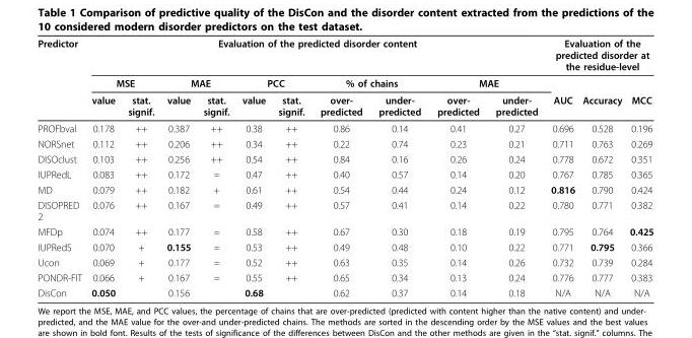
<table><thead><tr><td rowspan="3">Predictor</td><td colspan="10">Evaluation of the predicted disorder content</td><td colspan="3">Evaluation of the predicted disorder at the residue-level</td></tr><tr><td colspan="2">MSE</td><td colspan="2">MAE</td><td colspan="2">PCC</td><td colspan="2">% of chains</td><td colspan="2">MAE</td><td rowspan="2">AUC</td><td rowspan="2">Accuracy</td><td rowspan="2">MCC</td></tr><tr><td>value</td><td>stat. signif.</td><td>value</td><td>stat. signif.</td><td>value</td><td>stat. signif.</td><td>over- predicted</td><td>under- predicted</td><td>over- predicted</td><td>under- predicted</td></tr></thead><tbody><tr><td>PROFbval</td><td>0.178</td><td>++</td><td>0.387</td><td>++</td><td>0.38</td><td>++</td><td>0.86</td><td>0.14</td><td>0.41</td><td>0.27</td><td>0.696</td><td>0.528</td><td>0.196</td></tr><tr><td>NORSnet</td><td>0.112</td><td>++</td><td>0.206</td><td>++</td><td>0.34</td><td>++</td><td>0.22</td><td>0.74</td><td>0.23</td><td>0.21</td><td>0.711</td><td>0.763</td><td>0.269</td></tr><tr><td>DISOclust</td><td>0.103</td><td>++</td><td>0.256</td><td>++</td><td>0.54</td><td>++</td><td>0.84</td><td>0.16</td><td>0.26</td><td>0.24</td><td>0.778</td><td>0.672</td><td>0.351</td></tr><tr><td>IUPRedL</td><td>0.083</td><td>++</td><td>0.172</td><td>=</td><td>0.47</td><td>++</td><td>0.40</td><td>0.57</td><td>0.14</td><td>0.20</td><td>0.767</td><td>0.785</td><td>0.365</td></tr><tr><td>MD</td><td>0.079</td><td>++</td><td>0.182</td><td>+</td><td>0.61</td><td>++</td><td>0.54</td><td>0.44</td><td>0.24</td><td>0.12</td><td>0.816</td><td>0.790</td><td>0.424</td></tr><tr><td>DISOPRED 2</td><td>0.076</td><td>++</td><td>0.167</td><td>=</td><td>0.49</td><td>++</td><td>0.57</td><td>0.41</td><td>0.14</td><td>0.22</td><td>0.780</td><td>0.771</td><td>0.382</td></tr><tr><td>MFDp</td><td>0.074</td><td>++</td><td>0.177</td><td>=</td><td>0.58</td><td>++</td><td>0.67</td><td>0.30</td><td>0.18</td><td>0.19</td><td>0.795</td><td>0.764</td><td>0.425</td></tr><tr><td>IUPRedS</td><td>0.070</td><td>+</td><td>0.155</td><td>=</td><td>0.53</td><td>++</td><td>0.49</td><td>0.48</td><td>0.10</td><td>0.22</td><td>0.771</td><td>0.795</td><td>0.366</td></tr><tr><td>Ucon</td><td>0.069</td><td>+</td><td>0.177</td><td>=</td><td>0.52</td><td>++</td><td>0.63</td><td>0.35</td><td>0.14</td><td>0.26</td><td>0.732</td><td>0.739</td><td>0.284</td></tr><tr><td>PONDR-FIT</td><td>0.066</td><td>+</td><td>0.167</td><td>=</td><td>0.55</td><td>++</td><td>0.65</td><td>0.34</td><td>0.13</td><td>0.24</td><td>0.776</td><td>0.777</td><td>0.383</td></tr><tr><td>DisCon</td><td>0.050</td><td></td><td>0.156</td><td></td><td>0.68</td><td></td><td>0.62</td><td>0.37</td><td>0.14</td><td>0.18</td><td>N/A</td><td>N/A</td><td>N/A</td></tr></tbody></table>